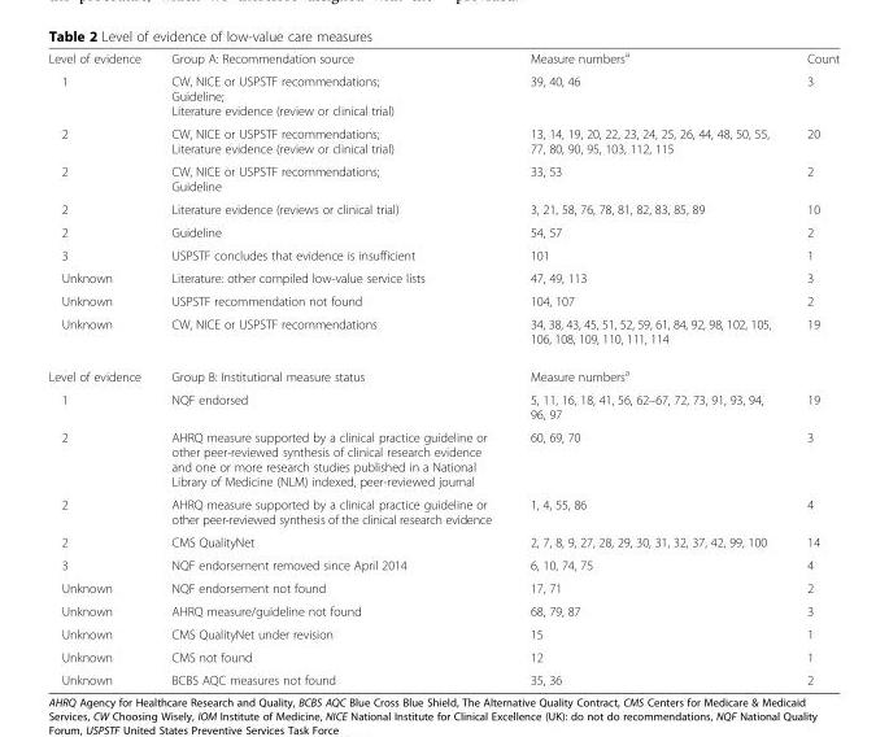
<table><tbody><tr><td>Level of evidence</td><td>Group A: Recommendation source</td><td>Measure numbers<sup>a</sup></td><td>Count</td></tr><tr><td>1</td><td>CW, NICE or USPSTF recommendations; Guideline; Literature evidence (review or clinical trial)</td><td>39, 40, 46</td><td>3</td></tr><tr><td>2</td><td>CW, NICE or USPSTF recommendations; Literature evidence (review or clinical trial)</td><td>13, 14, 19, 20, 22, 23, 24, 25, 26, 44, 48, 50, 55, 77, 80, 90, 95, 103, 112, 115</td><td>20</td></tr><tr><td>2</td><td>CW, NICE or USPSTF recommendations; Guideline</td><td>33, 53</td><td>2</td></tr><tr><td>2</td><td>Literature evidence (reviews or clinical trial)</td><td>3, 21, 58, 76, 78, 81, 82, 83, 85, 89</td><td>10</td></tr><tr><td>2</td><td>Guideline</td><td>54, 57</td><td>2</td></tr><tr><td>3</td><td>USPSTF concludes that evidence is insufficient</td><td>101</td><td>1</td></tr><tr><td>Unknown</td><td>Literature: other compiled low-value service lists</td><td>47, 49, 113</td><td>3</td></tr><tr><td>Unknown</td><td>USPSTF recommendation not found</td><td>104, 107</td><td>2</td></tr><tr><td>Unknown</td><td>CW, NICE or USPSTF recommendations</td><td>34, 38, 43, 45, 51, 52, 59, 61, 84, 92, 98, 102, 105, 106, 108, 109, 110, 111, 114</td><td>19</td></tr><tr><td>Level of evidence</td><td>Group B: Institutional measure status</td><td>Measure numbers<sup>a</sup></td><td></td></tr><tr><td>1</td><td>NQF endorsed</td><td>5, 11, 16, 18, 41, 56, 62–67, 72, 73, 91, 93, 94, 96, 97</td><td>19</td></tr><tr><td>2</td><td>AHRQ measure supported by a clinical practice guideline or other peer-reviewed synthesis of clinical research evidence and one or more research studies published in a National Library of Medicine (NLM) indexed, peer-reviewed journal</td><td>60, 69, 70</td><td>3</td></tr><tr><td>2</td><td>AHRQ measure supported by a clinical practice guideline or other peer-reviewed synthesis of the clinical research evidence</td><td>1, 4, 55, 86</td><td>4</td></tr><tr><td>2</td><td>CMS QualityNet</td><td>2, 7, 8, 9, 27, 28, 29, 30, 31, 32, 37, 42, 99, 100</td><td>14</td></tr><tr><td>3</td><td>NQF endorsement removed since April 2014</td><td>6, 10, 74, 75</td><td>4</td></tr><tr><td>Unknown</td><td>NQF endorsement not found</td><td>17, 71</td><td>2</td></tr><tr><td>Unknown</td><td>AHRQ measure/guideline not found</td><td>68, 79, 87</td><td>3</td></tr><tr><td>Unknown</td><td>CMS QualityNet under revision</td><td>15</td><td>1</td></tr><tr><td>Unknown</td><td>CMS not found</td><td>12</td><td>1</td></tr><tr><td>Unknown</td><td>BCBS AQC measures not found</td><td>35, 36</td><td>2</td></tr></tbody></table>